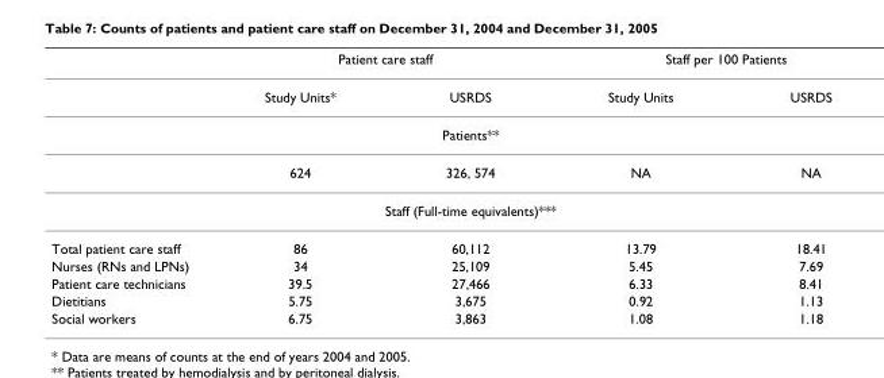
<table><thead><tr><td rowspan="2"></td><td colspan="2">Patient care staff</td><td colspan="2">Staff per 100 Patients</td></tr><tr><td>Study Units*</td><td>USRDS</td><td>Study Units</td><td>USRDS</td></tr></thead><tbody><tr><td colspan="5">Patients**</td></tr><tr><td></td><td>624</td><td>326, 574</td><td>NA</td><td>NA</td></tr><tr><td colspan="5">Staff (Full-time equivalents)***</td></tr><tr><td>Total patient care staff</td><td>86</td><td>60,112</td><td>13.79</td><td>18.41</td></tr><tr><td>Nurses (RNs and LPNs)</td><td>34</td><td>25,109</td><td>5.45</td><td>7.69</td></tr><tr><td>Patient care technicians</td><td>39.5</td><td>27,466</td><td>6.33</td><td>8.41</td></tr><tr><td>Dietitians</td><td>5.75</td><td>3,675</td><td>0.92</td><td>1.13</td></tr><tr><td>Social workers</td><td>6.75</td><td>3,863</td><td>1.08</td><td>1.18</td></tr></tbody></table>